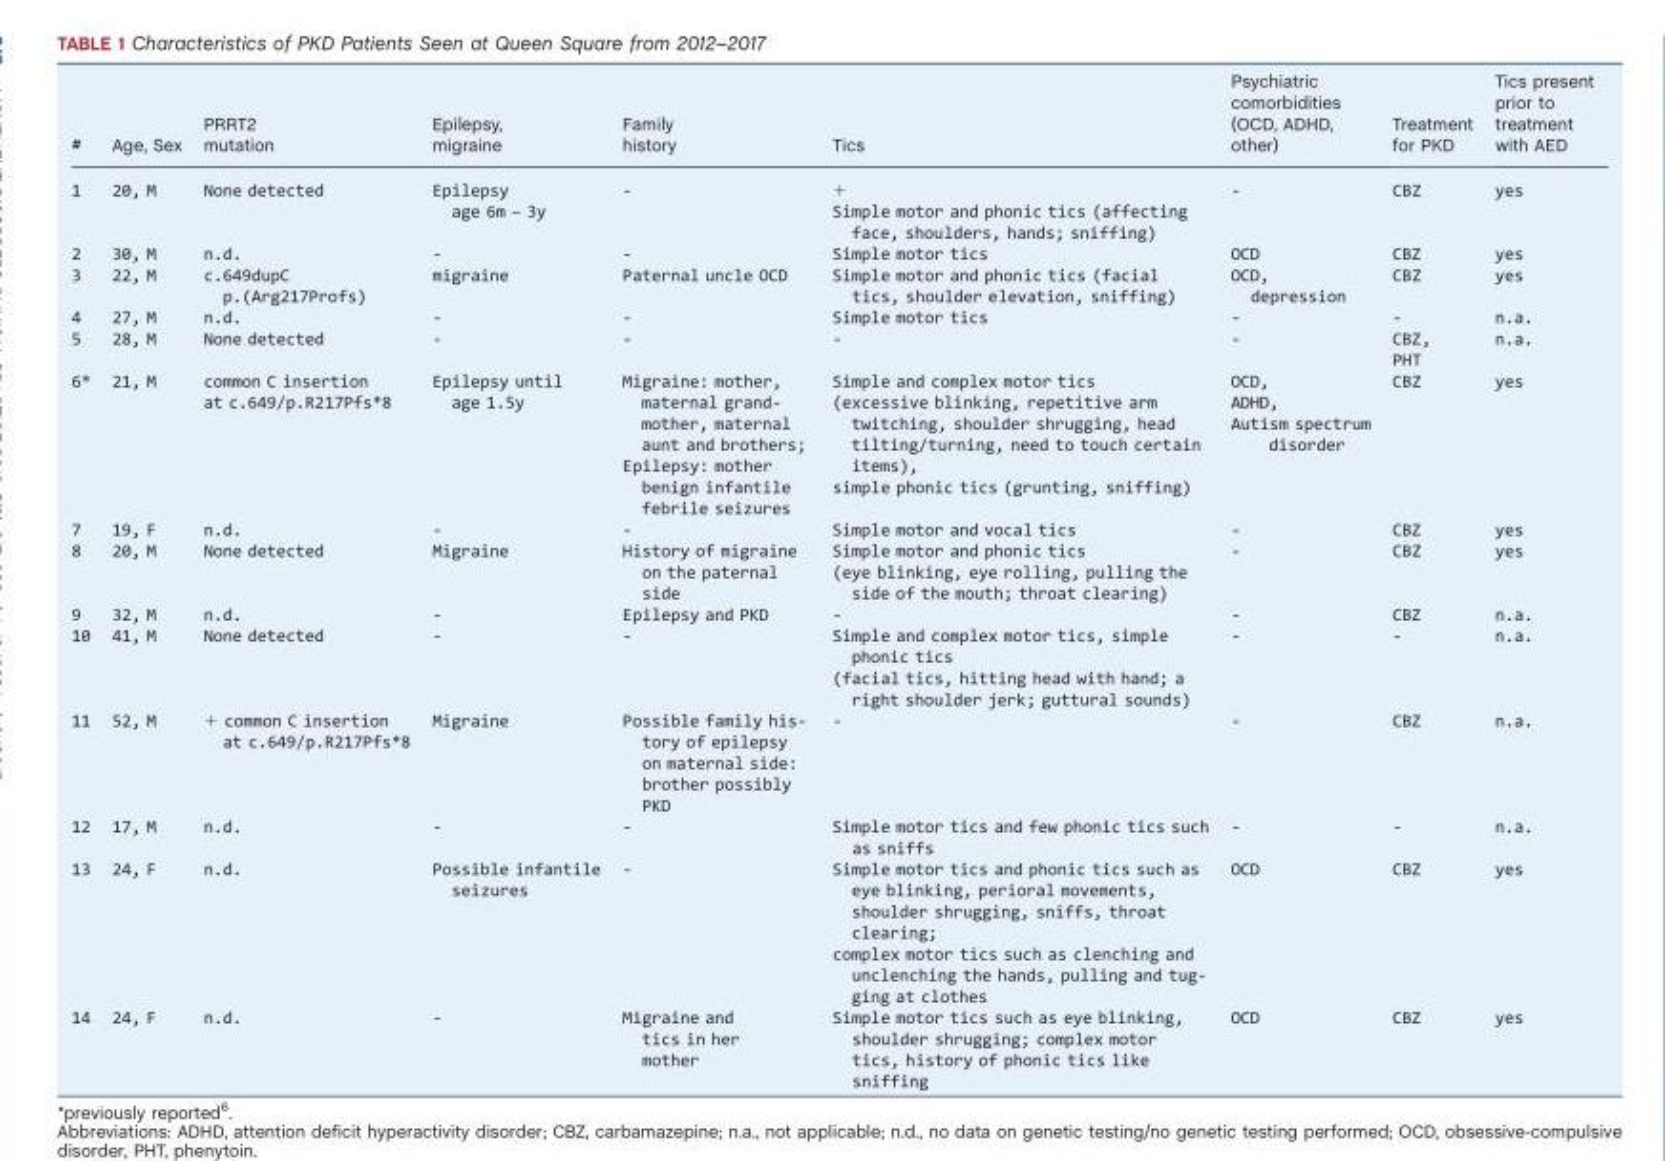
<table><thead><tr><td>#</td><td>Age, Sex</td><td>PRRT2 mutation</td><td>Epilepsy, migraine</td><td>Family history</td><td>Tics</td><td>Psychiatric comorbidities (OCD, ADHD, other)</td><td>Treatment for PKD</td><td>Tics present prior to treatment with AED</td></tr></thead><tbody><tr><td>1</td><td>20, M</td><td>None detected</td><td>Epilepsy age 6m – 3y</td><td>-</td><td>+ Simple motor and phonic tics (affecting face, shoulders, hands; sniffing)</td><td>-</td><td>CBZ</td><td>yes</td></tr><tr><td>2</td><td>30, M</td><td>n.d.</td><td>-</td><td>-</td><td>Simple motor tics</td><td>OCD</td><td>CBZ</td><td>yes</td></tr><tr><td>3</td><td>22, M</td><td>c.649dupC p.(Arg217Profs)</td><td>migraine</td><td>Paternal uncle OCD</td><td>Simple motor and phonic tics (facial tics, shoulder elevation, sniffing)</td><td>OCD, depression</td><td>CBZ</td><td>yes</td></tr><tr><td>4</td><td>27, M</td><td>n.d.</td><td>-</td><td>-</td><td>Simple motor tics</td><td>-</td><td>-</td><td>n.a.</td></tr><tr><td>5</td><td>28, M</td><td>None detected</td><td>-</td><td>-</td><td>-</td><td>-</td><td>CBZ, PHT</td><td>n.a.</td></tr><tr><td>6*</td><td>21, M</td><td>common C insertion at c.649/p.R217Pfs*8</td><td>Epilepsy until age 1.5y</td><td>Migraine: mother, maternal grand- mother, maternal aunt and brothers; Epilepsy: mother benign infantile febrile seizures</td><td>Simple and complex motor tics (excessive blinking, repetitive arm twitching, shoulder shrugging, head tilting/turning, need to touch certain items), simple phonic tics (grunting, sniffing)</td><td>OCD, ADHD, Autism spectrum disorder</td><td>CBZ</td><td>yes</td></tr><tr><td>7</td><td>19, F</td><td>n.d.</td><td>-</td><td>-</td><td>Simple motor and vocal tics</td><td>-</td><td>CBZ</td><td>yes</td></tr><tr><td>8</td><td>20, M</td><td>None detected</td><td>Migraine</td><td>History of migraine on the paternal side</td><td>Simple motor and phonic tics (eye blinking, eye rolling, pulling the side of the mouth; throat clearing)</td><td>-</td><td>CBZ</td><td>yes</td></tr><tr><td>9</td><td>32, M</td><td>n.d.</td><td>-</td><td>Epilepsy and PKD</td><td>-</td><td>-</td><td>CBZ</td><td>n.a.</td></tr><tr><td>10</td><td>41, M</td><td>None detected</td><td>-</td><td>-</td><td>Simple and complex motor tics, simple phonic tics (facial tics, hitting head with hand; a right shoulder jerk; guttural sounds)</td><td>-</td><td>-</td><td>n.a.</td></tr><tr><td>11</td><td>52, M</td><td>+ common C insertion at c.649/p.R217Pfs*8</td><td>Migraine</td><td>Possible family his- tory of epilepsy on maternal side: brother possibly PKD</td><td>-</td><td>-</td><td>CBZ</td><td>n.a.</td></tr><tr><td>12</td><td>17, M</td><td>n.d.</td><td>-</td><td>-</td><td>Simple motor tics and few phonic tics such as sniffs</td><td>-</td><td>-</td><td>n.a.</td></tr><tr><td>13</td><td>24, F</td><td>n.d.</td><td>Possible infantile seizures</td><td>-</td><td>Simple motor tics and phonic tics such as eye blinking, perioral movements, shoulder shrugging, sniffs, throat clearing; complex motor tics such as clenching and unclenching the hands, pulling and tug- ging at clothes</td><td>OCD</td><td>CBZ</td><td>yes</td></tr><tr><td>14</td><td>24, F</td><td>n.d.</td><td>-</td><td>Migraine and tics in her mother</td><td>Simple motor tics such as eye blinking, shoulder shrugging; complex motor tics, history of phonic tics like sniffing</td><td>OCD</td><td>CBZ</td><td>yes</td></tr></tbody></table>